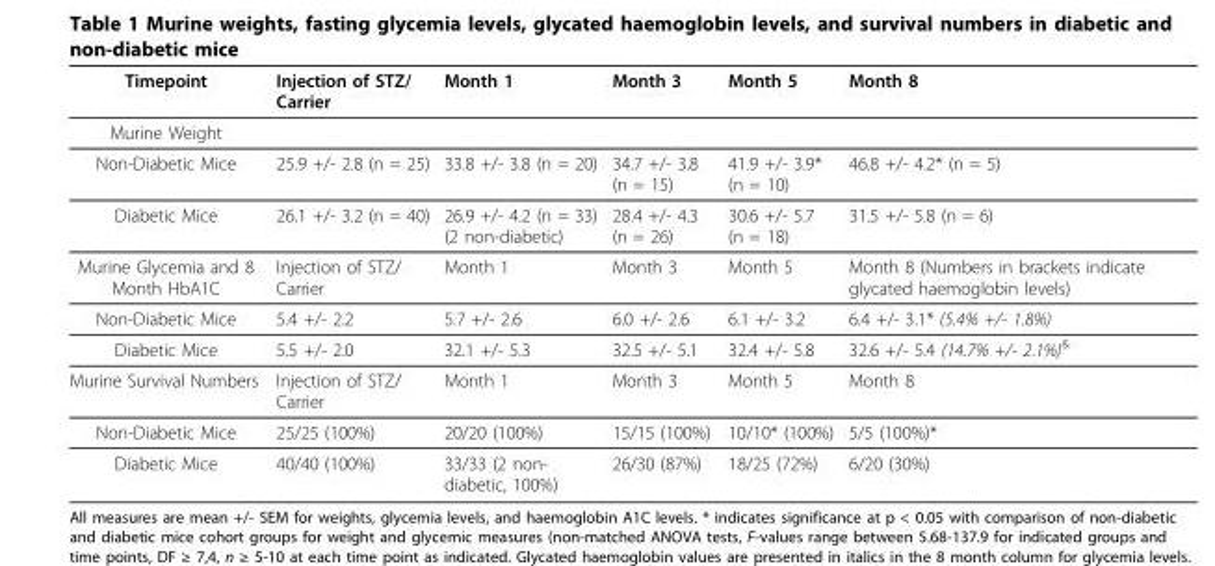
<table><thead><tr><td>Timepoint</td><td>Injection of STZ/ Carrier</td><td>Month 1</td><td>Month 3</td><td>Month 5</td><td>Month 8</td></tr></thead><tbody><tr><td colspan="6">Murine Weight</td></tr><tr><td>Non-Diabetic Mice</td><td>25.9 +/- 2.8 (n = 25)</td><td>33.8 +/- 3.8 (n = 20)</td><td>34.7 +/- 3.8 (n = 15)</td><td>41.9 +/- 3.9* (n = 10)</td><td>46.8 +/- 4.2* (n = 5)</td></tr><tr><td>Diabetic Mice</td><td>26.1 +/- 3.2 (n = 40)</td><td>26.9 +/- 4.2 (n = 33) (2 non-diabetic)</td><td>28.4 +/- 4.3 (n = 26)</td><td>30.6 +/- 5.7 (n = 18)</td><td>31.5 +/- 5.8 (n = 6)</td></tr><tr><td>Murine Glycemia and 8 Month HbA1C</td><td>Injection of STZ/ Carrier</td><td>Month 1</td><td>Month 3</td><td>Month 5</td><td>Month 8 (Numbers in brackets indicate glycated haemoglobin levels)</td></tr><tr><td>Non-Diabetic Mice</td><td>5.4 +/- 2.2</td><td>5.7 +/- 2.6</td><td>6.0 +/- 2.6</td><td>6.1 +/- 3.2</td><td>6.4 +/- 3.1* (5.4% +/- 1.8%)</td></tr><tr><td>Diabetic Mice</td><td>5.5 +/- 2.0</td><td>32.1 +/- 5.3</td><td>32.5 +/- 5.1</td><td>32.4 +/- 5.8</td><td>32.6 +/- 5.4 (14.7% +/- 2.1%)<sup>&amp;</sup></td></tr><tr><td>Murine Survival Numbers</td><td>Injection of STZ/ Carrier</td><td>Month 1</td><td>Month 3</td><td>Month 5</td><td>Month 8</td></tr><tr><td>Non-Diabetic Mice</td><td>25/25 (100%)</td><td>20/20 (100%)</td><td>15/15 (100%)</td><td>10/10* (100%)</td><td>5/5 (100%)*</td></tr><tr><td>Diabetic Mice</td><td>40/40 (100%)</td><td>33/33 (2 non- diabetic, 100%)</td><td>26/30 (87%)</td><td>18/25 (72%)</td><td>6/20 (30%)</td></tr></tbody></table>